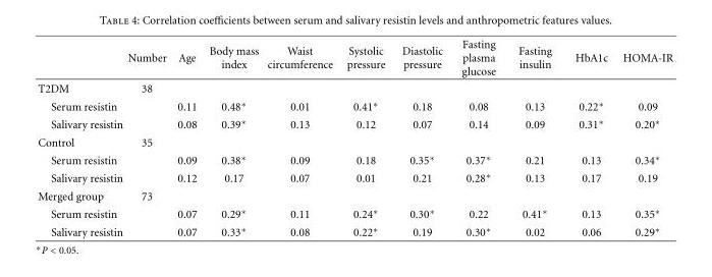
<table><thead><tr><td></td><td>Number</td><td>Age</td><td>Body mass index</td><td>Waist circumference</td><td>Systolic pressure</td><td>Diastolic pressure</td><td>Fasting plasma glucose</td><td>Fasting insulin</td><td>HbA1c</td><td>HOMA-IR</td></tr></thead><tbody><tr><td>T2DM</td><td>38</td><td></td><td></td><td></td><td></td><td></td><td></td><td></td><td></td><td></td></tr><tr><td>Serum resistin</td><td></td><td>0.11</td><td>0.48∗</td><td>0.01</td><td>0.41∗</td><td>0.18</td><td>0.08</td><td>0.13</td><td>0.22∗</td><td>0.09</td></tr><tr><td>Salivary resistin</td><td></td><td>0.08</td><td>0.39∗</td><td>0.13</td><td>0.12</td><td>0.07</td><td>0.14</td><td>0.09</td><td>0.31∗</td><td>0.20∗</td></tr><tr><td>Control</td><td>35</td><td></td><td></td><td></td><td></td><td></td><td></td><td></td><td></td><td></td></tr><tr><td>Serum resistin</td><td></td><td>0.09</td><td>0.38∗</td><td>0.09</td><td>0.18</td><td>0.35∗</td><td>0.37∗</td><td>0.21</td><td>0.13</td><td>0.34∗</td></tr><tr><td>Salivary resistin</td><td></td><td>0.12</td><td>0.17</td><td>0.07</td><td>0.01</td><td>0.21</td><td>0.28∗</td><td>0.13</td><td>0.17</td><td>0.19</td></tr><tr><td>Merged group</td><td>73</td><td></td><td></td><td></td><td></td><td></td><td></td><td></td><td></td><td></td></tr><tr><td>Serum resistin</td><td></td><td>0.07</td><td>0.29∗</td><td>0.11</td><td>0.24∗</td><td>0.30∗</td><td>0.22</td><td>0.41∗</td><td>0.13</td><td>0.35∗</td></tr><tr><td>Salivary resistin</td><td></td><td>0.07</td><td>0.33∗</td><td>0.08</td><td>0.22∗</td><td>0.19</td><td>0.30∗</td><td>0.02</td><td>0.06</td><td>0.29∗</td></tr></tbody></table>